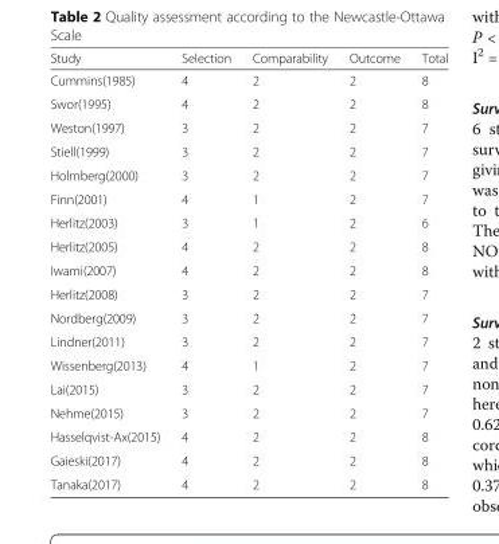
<table><thead><tr><td>Study</td><td>Selection</td><td>Comparability</td><td>Outcome</td><td>Total</td></tr></thead><tbody><tr><td>Cummins(1985)</td><td>4</td><td>2</td><td>2</td><td>8</td></tr><tr><td>Swor(1995)</td><td>4</td><td>2</td><td>2</td><td>8</td></tr><tr><td>Weston(1997)</td><td>3</td><td>2</td><td>2</td><td>7</td></tr><tr><td>Stiell(1999)</td><td>3</td><td>2</td><td>2</td><td>7</td></tr><tr><td>Holmberg(2000)</td><td>3</td><td>2</td><td>2</td><td>7</td></tr><tr><td>Finn(2001)</td><td>4</td><td>1</td><td>2</td><td>7</td></tr><tr><td>Herlitz(2003)</td><td>3</td><td>1</td><td>2</td><td>6</td></tr><tr><td>Herlitz(2005)</td><td>4</td><td>2</td><td>2</td><td>8</td></tr><tr><td>Iwami(2007)</td><td>4</td><td>2</td><td>2</td><td>8</td></tr><tr><td>Herlitz(2008)</td><td>3</td><td>2</td><td>2</td><td>7</td></tr><tr><td>Nordberg(2009)</td><td>3</td><td>2</td><td>2</td><td>7</td></tr><tr><td>Lindner(2011)</td><td>3</td><td>2</td><td>2</td><td>7</td></tr><tr><td>Wissenberg(2013)</td><td>4</td><td>1</td><td>2</td><td>7</td></tr><tr><td>Lai(2015)</td><td>3</td><td>2</td><td>2</td><td>7</td></tr><tr><td>Nehme(2015)</td><td>3</td><td>2</td><td>2</td><td>7</td></tr><tr><td>Hasselqvist-Ax(2015)</td><td>4</td><td>2</td><td>2</td><td>8</td></tr><tr><td>Gaieski(2017)</td><td>4</td><td>2</td><td>2</td><td>8</td></tr><tr><td>Tanaka(2017)</td><td>4</td><td>2</td><td>2</td><td>8</td></tr></tbody></table>